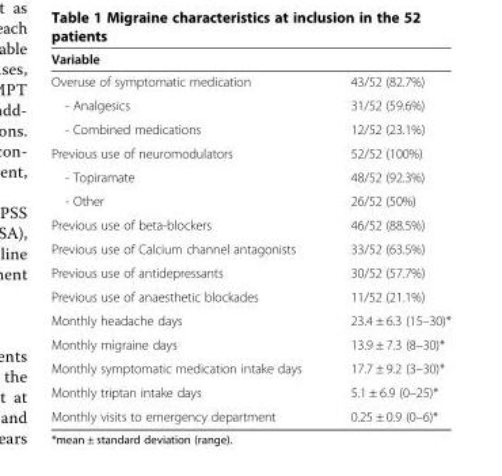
<table><thead><tr><td>Variable</td><td></td></tr></thead><tbody><tr><td>Overuse of symptomatic medication</td><td>43/52 (82.7%)</td></tr><tr><td>- Analgesics</td><td>31/52 (59.6%)</td></tr><tr><td>- Combined medications</td><td>12/52 (23.1%)</td></tr><tr><td>Previous use of neuromodulators</td><td>52/52 (100%)</td></tr><tr><td>- Topiramate</td><td>48/52 (92.3%)</td></tr><tr><td>- Other</td><td>26/52 (50%)</td></tr><tr><td>Previous use of beta-blockers</td><td>46/52 (88.5%)</td></tr><tr><td>Previous use of Calcium channel antagonists</td><td>33/52 (63.5%)</td></tr><tr><td>Previous use of antidepressants</td><td>30/52 (57.7%)</td></tr><tr><td>Previous use of anaesthetic blockades</td><td>11/52 (21.1%)</td></tr><tr><td>Monthly headache days</td><td>23.4 ± 6.3 (15–30)*</td></tr><tr><td>Monthly migraine days</td><td>13.9 ± 7.3 (8–30)*</td></tr><tr><td>Monthly symptomatic medication intake days</td><td>17.7 ± 9.2 (3–30)*</td></tr><tr><td>Monthly triptan intake days</td><td>5.1 ± 6.9 (0–25)*</td></tr><tr><td>Monthly visits to emergency department</td><td>0.25 ± 0.9 (0–6)*</td></tr></tbody></table>